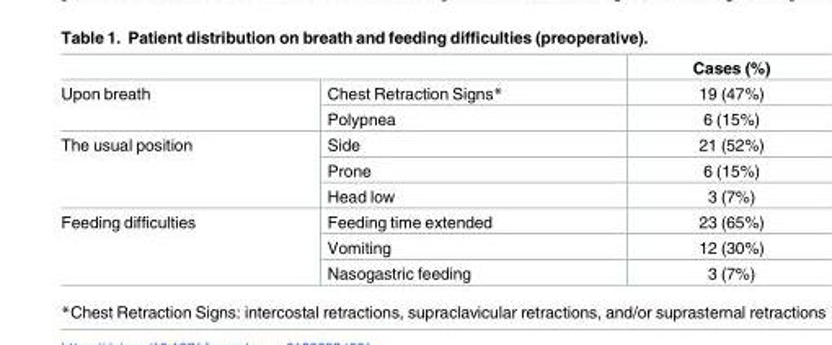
<table><thead><tr><td></td><td></td><td>Cases (%)</td></tr></thead><tbody><tr><td rowspan="2">Upon breath</td><td>Chest Retraction Signs*</td><td>19 (47%)</td></tr><tr><td>Polypnea</td><td>6 (15%)</td></tr><tr><td rowspan="3">The usual position</td><td>Side</td><td>21 (52%)</td></tr><tr><td>Prone</td><td>6 (15%)</td></tr><tr><td>Head low</td><td>3 (7%)</td></tr><tr><td rowspan="3">Feeding difficulties</td><td>Feeding time extended</td><td>23 (65%)</td></tr><tr><td>Vomiting</td><td>12 (30%)</td></tr><tr><td>Nasogastric feeding</td><td>3 (7%)</td></tr></tbody></table>